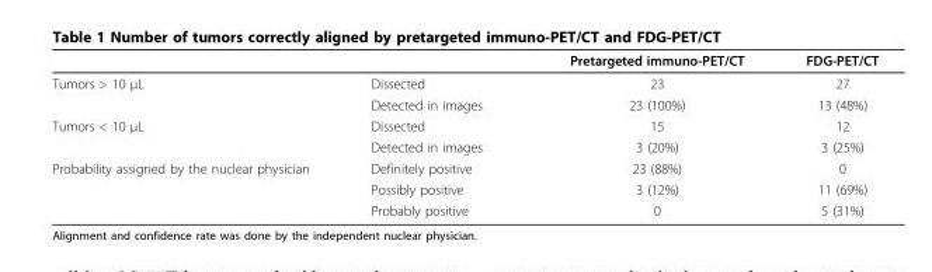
<table><thead><tr><td></td><td></td><td>Pretargeted immuno-PET/CT</td><td>FDG-PET/CT</td></tr></thead><tbody><tr><td rowspan="2">Tumors &gt; 10 μL</td><td>Dissected</td><td>23</td><td>27</td></tr><tr><td>Detected in images</td><td>23 (100%)</td><td>13 (48%)</td></tr><tr><td rowspan="2">Tumors &lt; 10 μL</td><td>Dissected</td><td>15</td><td>12</td></tr><tr><td>Detected in images</td><td>3 (20%)</td><td>3 (25%)</td></tr><tr><td rowspan="3">Probability assigned by the nuclear physician</td><td>Definitely positive</td><td>23 (88%)</td><td>0</td></tr><tr><td>Possibly positive</td><td>3 (12%)</td><td>11 (69%)</td></tr><tr><td>Probably positive</td><td>0</td><td>5 (31%)</td></tr></tbody></table>